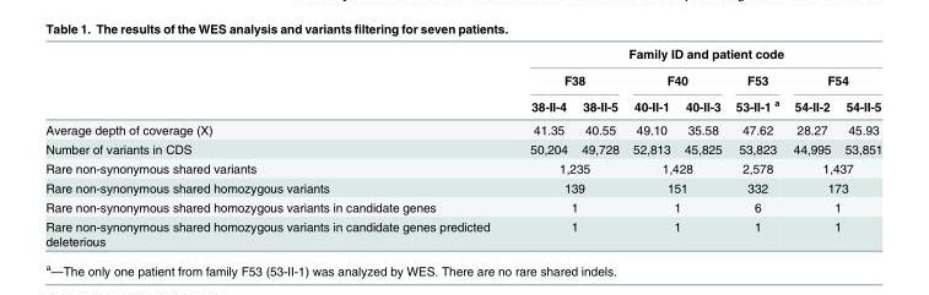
<table><thead><tr><td rowspan="3"></td><td colspan="7">Family ID and patient code</td></tr><tr><td colspan="2">F38</td><td colspan="2">F40</td><td rowspan="2">F53 53-II-1 <sup>a</sup></td><td colspan="2">F54</td></tr><tr><td>38-II-4</td><td>38-II-5</td><td>40-II-1</td><td>40-II-3</td><td>54-II-2</td><td>54-II-5</td></tr></thead><tbody><tr><td>Average depth of coverage (X)</td><td>41.35</td><td>40.55</td><td>49.10</td><td>35.58</td><td>47.62</td><td>28.27</td><td>45.93</td></tr><tr><td>Number of variants in CDS</td><td>50,204</td><td>49,728</td><td>52,813</td><td>45,825</td><td>53,823</td><td>44,995</td><td>53,851</td></tr><tr><td>Rare non-synonymous shared variants</td><td colspan="2">1,235</td><td colspan="2">1,428</td><td>2,578</td><td colspan="2">1,437</td></tr><tr><td>Rare non-synonymous shared homozygous variants</td><td colspan="2">139</td><td colspan="2">151</td><td>332</td><td colspan="2">173</td></tr><tr><td>Rare non-synonymous shared homozygous variants in candidate genes</td><td colspan="2">1</td><td colspan="2">1</td><td>6</td><td colspan="2">1</td></tr><tr><td>Rare non-synonymous shared homozygous variants in candidate genes predicted deleterious</td><td colspan="2">1</td><td colspan="2">1</td><td>1</td><td colspan="2">1</td></tr></tbody></table>